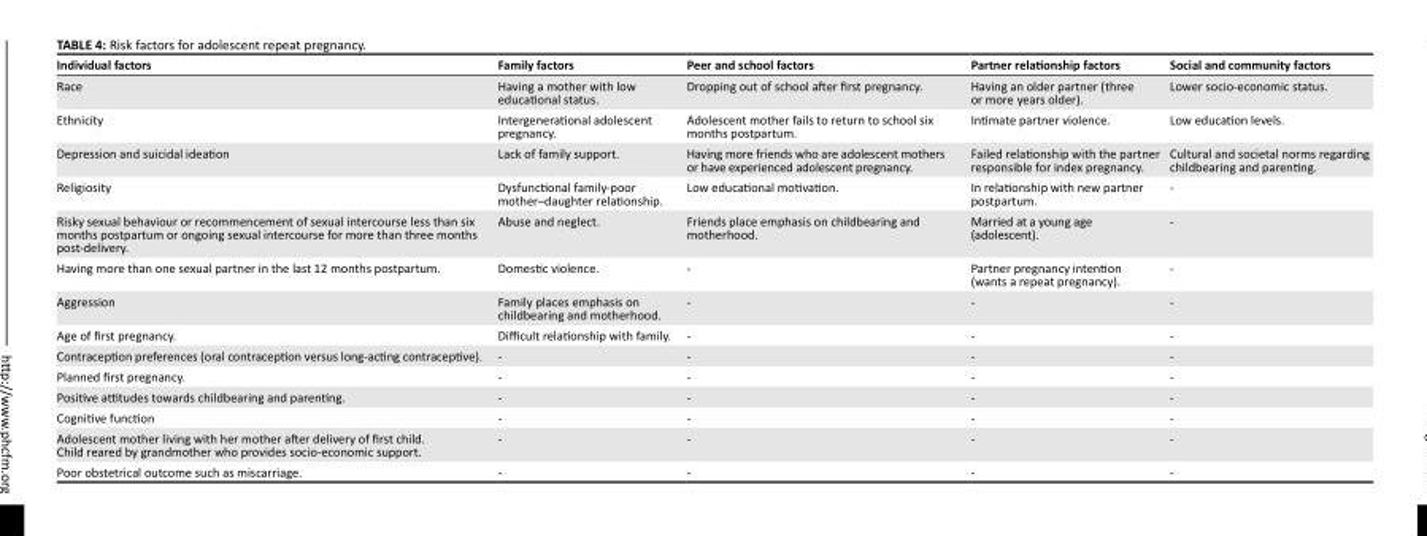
<table><thead><tr><td>Individual factors</td><td>Family factors</td><td>Peer and school factors</td><td>Partner relationship factors</td><td>Social and community factors</td></tr></thead><tbody><tr><td>Race</td><td>Having a mother with low educational status.</td><td>Dropping out of school after first pregnancy.</td><td>Having an older partner (three or more years older).</td><td>Lower socio-economic status.</td></tr><tr><td>Ethnicity</td><td>Intergenerational adolescent pregnancy.</td><td>Adolescent mother fails to return to school six months postpartum.</td><td>Intimate partner violence.</td><td>Low education levels.</td></tr><tr><td>Depression and suicidal ideation</td><td>Lack of family support.</td><td>Having more friends who are adolescent mothers or have experienced adolescent pregnancy.</td><td>Failed relationship with the partner responsible for index pregnancy.</td><td>Cultural and societal norms regarding childbearing and parenting.</td></tr><tr><td>Religiosity</td><td>Dysfunctional family-poor mother–daughter relationship.</td><td>Low educational motivation.</td><td>In relationship with new partner postpartum.</td><td>-</td></tr><tr><td>Risky sexual behaviour or recommencement of sexual intercourse less than six months postpartum or ongoing sexual intercourse for more than three months post-delivery.</td><td>Abuse and neglect.</td><td>Friends place emphasis on childbearing and motherhood.</td><td>Married at a young age (adolescent).</td><td>-</td></tr><tr><td>Having more than one sexual partner in the last 12 months postpartum.</td><td>Domestic violence.</td><td>-</td><td>Partner pregnancy intention (wants a repeat pregnancy).</td><td>-</td></tr><tr><td>Aggression</td><td>Family places emphasis on childbearing and motherhood.</td><td>-</td><td>-</td><td>-</td></tr><tr><td>Age of first pregnancy.</td><td>Difficult relationship with family.</td><td>-</td><td>-</td><td>-</td></tr><tr><td>Contraception preferences (oral contraception versus long-acting contraceptive).</td><td>-</td><td>-</td><td>-</td><td>-</td></tr><tr><td>Planned first pregnancy.</td><td>-</td><td>-</td><td>-</td><td>-</td></tr><tr><td>Positive attitudes towards childbearing and parenting.</td><td>-</td><td>-</td><td>-</td><td>-</td></tr><tr><td>Cognitive function</td><td>-</td><td>-</td><td>-</td><td>-</td></tr><tr><td>Adolescent mother living with her mother after delivery of first child. Child reared by grandmother who provides socio-economic support.</td><td>-</td><td>-</td><td>-</td><td>-</td></tr><tr><td>Poor obstetrical outcome such as miscarriage.</td><td>-</td><td>-</td><td>-</td><td>-</td></tr></tbody></table>